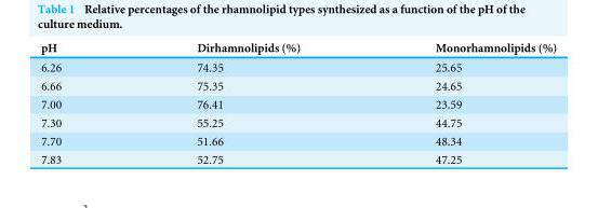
<table><thead><tr><td>pH</td><td>Dirhamnolipids (%)</td><td>Monorhamnolipids (%)</td></tr></thead><tbody><tr><td>6.26</td><td>74.35</td><td>25.65</td></tr><tr><td>6.66</td><td>75.35</td><td>24.65</td></tr><tr><td>7.00</td><td>76.41</td><td>23.59</td></tr><tr><td>7.30</td><td>55.25</td><td>44.75</td></tr><tr><td>7.70</td><td>51.66</td><td>48.34</td></tr><tr><td>7.83</td><td>52.75</td><td>47.25</td></tr></tbody></table>